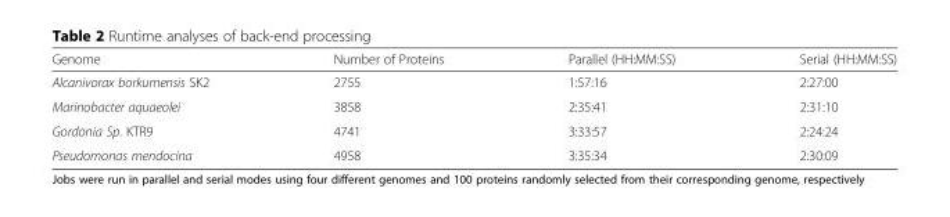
<table><thead><tr><td>Genome</td><td>Number of Proteins</td><td>Parallel (HH:MM:SS)</td><td>Serial (HH:MM:SS)</td></tr></thead><tbody><tr><td>Alcanivorax borkumensis SK2</td><td>2755</td><td>1:57:16</td><td>2:27:00</td></tr><tr><td>Marinobacter aquaeolei</td><td>3858</td><td>2:35:41</td><td>2:31:10</td></tr><tr><td>Gordonia Sp. KTR9</td><td>4741</td><td>3:33:57</td><td>2:24:24</td></tr><tr><td>Pseudomonas mendocina</td><td>4958</td><td>3:35:34</td><td>2:30:09</td></tr></tbody></table>